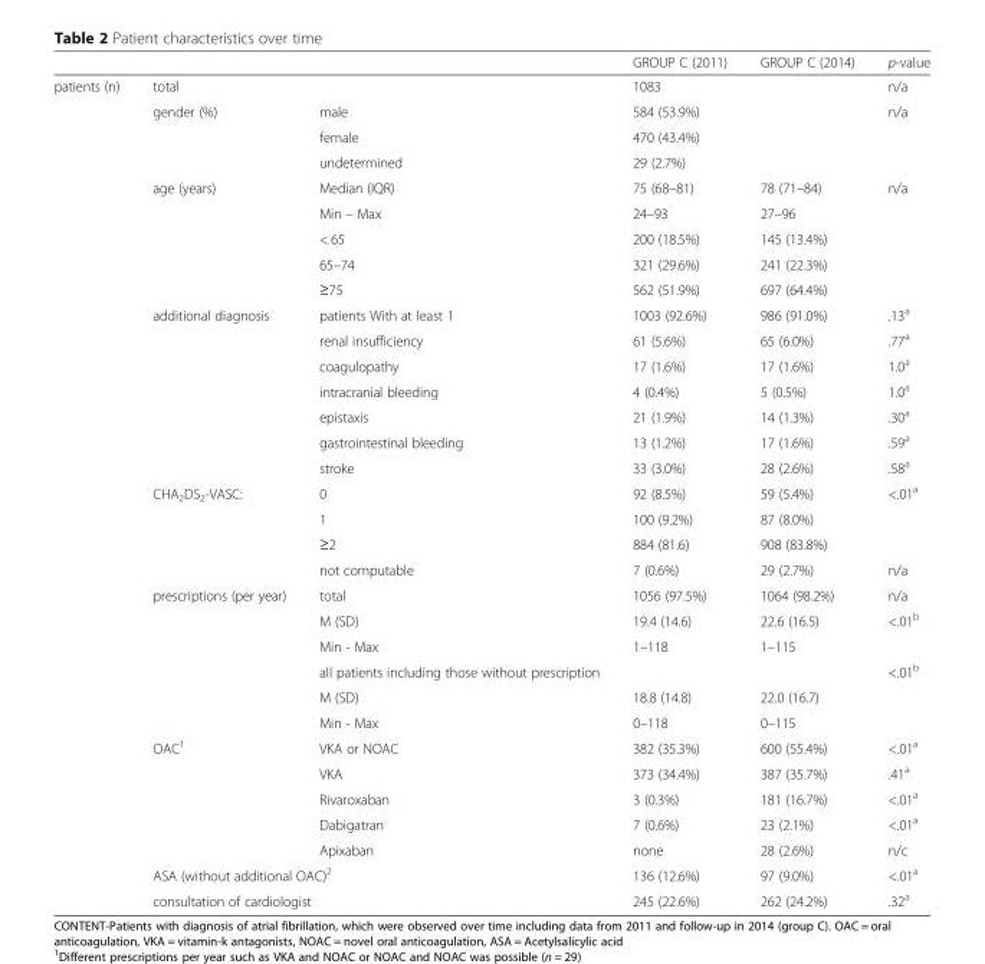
<table><thead><tr><td></td><td></td><td></td><td>GROUP C (2011)</td><td>GROUP C (2014)</td><td>p-value</td></tr></thead><tbody><tr><td rowspan="33">patients (n)</td><td colspan="2">total</td><td colspan="2">1083</td><td>n/a</td></tr><tr><td rowspan="3">gender (%)</td><td>male</td><td colspan="2">584 (53.9%)</td><td rowspan="3">n/a</td></tr><tr><td>female</td><td colspan="2">470 (43.4%)</td></tr><tr><td>undetermined</td><td colspan="2">29 (2.7%)</td></tr><tr><td rowspan="5">age (years)</td><td>Median (IQR)</td><td>75 (68–81)</td><td>78 (71–84)</td><td rowspan="5">n/a</td></tr><tr><td>Min – Max</td><td>24–93</td><td>27–96</td></tr><tr><td>&lt; 65</td><td>200 (18.5%)</td><td>145 (13.4%)</td></tr><tr><td>65–74</td><td>321 (29.6%)</td><td>241 (22.3%)</td></tr><tr><td>≥75</td><td>562 (51.9%)</td><td>697 (64.4%)</td></tr><tr><td rowspan="7">additional diagnosis</td><td>patients With at least 1</td><td>1003 (92.6%)</td><td>986 (91.0%)</td><td>.13<sup>a</sup></td></tr><tr><td>renal insufficiency</td><td>61 (5.6%)</td><td>65 (6.0%)</td><td>.77<sup>a</sup></td></tr><tr><td>coagulopathy</td><td>17 (1.6%)</td><td>17 (1.6%)</td><td>1.0<sup>a</sup></td></tr><tr><td>intracranial bleeding</td><td>4 (0.4%)</td><td>5 (0.5%)</td><td>1.0<sup>a</sup></td></tr><tr><td>epistaxis</td><td>21 (1.9%)</td><td>14 (1.3%)</td><td>.30<sup>a</sup></td></tr><tr><td>gastrointestinal bleeding</td><td>13 (1.2%)</td><td>17 (1.6%)</td><td>.59<sup>a</sup></td></tr><tr><td>stroke</td><td>33 (3.0%)</td><td>28 (2.6%)</td><td>.58<sup>a</sup></td></tr><tr><td rowspan="4">CHA<sub>2</sub>DS<sub>2</sub>-VASC:</td><td>0</td><td>92 (8.5%)</td><td>59 (5.4%)</td><td rowspan="3">&lt;.01<sup>a</sup></td></tr><tr><td>1</td><td>100 (9.2%)</td><td>87 (8.0%)</td></tr><tr><td>≥2</td><td>884 (81.6)</td><td>908 (83.8%)</td></tr><tr><td>not computable</td><td>7 (0.6%)</td><td>29 (2.7%)</td><td>n/a</td></tr><tr><td rowspan="6">prescriptions (per year)</td><td>total</td><td>1056 (97.5%)</td><td>1064 (98.2%)</td><td>n/a</td></tr><tr><td>M (SD)</td><td>19.4 (14.6)</td><td>22.6 (16.5)</td><td rowspan="2">&lt;.01<sup>b</sup></td></tr><tr><td>Min - Max</td><td>1–118</td><td>1–115</td></tr><tr><td>all patients including those without prescription</td><td></td><td></td><td rowspan="3">&lt;.01<sup>b</sup></td></tr><tr><td>M (SD)</td><td>18.8 (14.8)</td><td>22.0 (16.7)</td></tr><tr><td>Min - Max</td><td>0–118</td><td>0–115</td></tr><tr><td rowspan="5">OAC<sup>1</sup></td><td>VKA or NOAC</td><td>382 (35.3%)</td><td>600 (55.4%)</td><td>&lt;.01<sup>a</sup></td></tr><tr><td>VKA</td><td>373 (34.4%)</td><td>387 (35.7%)</td><td>.41<sup>a</sup></td></tr><tr><td>Rivaroxaban</td><td>3 (0.3%)</td><td>181 (16.7%)</td><td>&lt;.01<sup>a</sup></td></tr><tr><td>Dabigatran</td><td>7 (0.6%)</td><td>23 (2.1%)</td><td>&lt;.01<sup>a</sup></td></tr><tr><td>Apixaban</td><td>none</td><td>28 (2.6%)</td><td>n/c</td></tr><tr><td colspan="2">ASA (without additional OAC)<sup>2</sup></td><td>136 (12.6%)</td><td>97 (9.0%)</td><td>&lt;.01<sup>a</sup></td></tr><tr><td colspan="2">consultation of cardiologist</td><td>245 (22.6%)</td><td>262 (24.2%)</td><td>.32<sup>a</sup></td></tr></tbody></table>